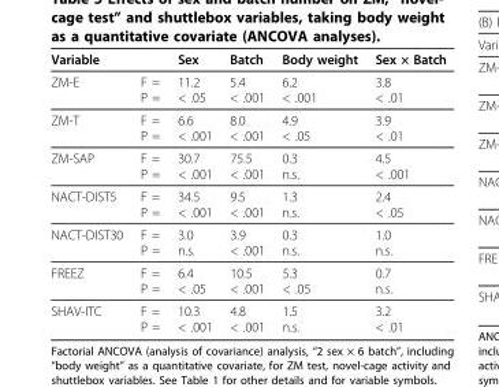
<table><thead><tr><td>Variable</td><td></td><td>Sex</td><td>Batch</td><td>Body weight</td><td>Sex × Batch</td></tr></thead><tbody><tr><td>ZM-E</td><td>F = P =</td><td>11.2 &lt; .05</td><td>5.4 &lt; .001</td><td>6.2 &lt; .001</td><td>3.8 &lt; .01</td></tr><tr><td>ZM-T</td><td>F = P =</td><td>6.6 &lt; .001</td><td>8.0 &lt; .001</td><td>4.9 &lt; .05</td><td>3.9 &lt; .01</td></tr><tr><td>ZM-SAP</td><td>F = P =</td><td>30.7 &lt; .001</td><td>75.5 &lt; .001</td><td>0.3 n.s.</td><td>4.5 &lt; .001</td></tr><tr><td>NACT-DIST5</td><td>F = P =</td><td>34.5 &lt; .001</td><td>9.5 &lt; .001</td><td>1.3 n.s.</td><td>2.4 &lt; .05</td></tr><tr><td>NACT-DIST30</td><td>F = P =</td><td>3.0 n.s.</td><td>3.9 &lt; .001</td><td>0.3 n.s.</td><td>1.0 n.s.</td></tr><tr><td>FREEZ</td><td>F = P =</td><td>6.4 &lt; .05</td><td>10.5 &lt; .001</td><td>5.3 &lt; .05</td><td>0.7 n.s.</td></tr><tr><td>SHAV-ITC</td><td>F = P =</td><td>10.3 &lt; .001</td><td>4.8 &lt; .001</td><td>1.5 n.s.</td><td>3.2 &lt; .01</td></tr></tbody></table>